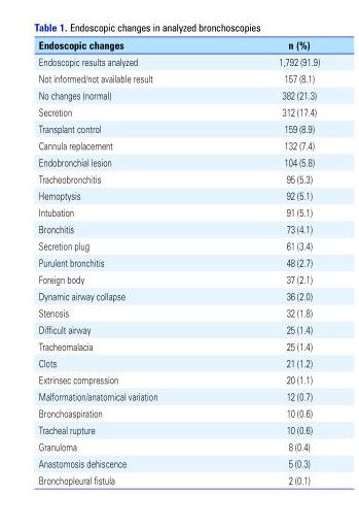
<table><thead><tr><td>Endoscopic changes</td><td>n (%)</td></tr></thead><tbody><tr><td>Endoscopic results analyzed</td><td>1,792 (91.9)</td></tr><tr><td>Not informed/not available result</td><td>157 (8.1)</td></tr><tr><td>No changes (normal)</td><td>382 (21.3)</td></tr><tr><td>Secretion</td><td>312 (17.4)</td></tr><tr><td>Transplant control</td><td>159 (8.9)</td></tr><tr><td>Cannula replacement</td><td>132 (7.4)</td></tr><tr><td>Endobronchial lesion</td><td>104 (5.8)</td></tr><tr><td>Tracheobronchitis</td><td>95 (5.3)</td></tr><tr><td>Hemoptysis</td><td>92 (5.1)</td></tr><tr><td>Intubation</td><td>91 (5.1)</td></tr><tr><td>Bronchitis</td><td>73 (4.1)</td></tr><tr><td>Secretion plug</td><td>61 (3.4)</td></tr><tr><td>Purulent bronchitis</td><td>48 (2.7)</td></tr><tr><td>Foreign body</td><td>37 (2.1)</td></tr><tr><td>Dynamic airway collapse</td><td>36 (2.0)</td></tr><tr><td>Stenosis</td><td>32 (1.8)</td></tr><tr><td>Difficult airway</td><td>25 (1.4)</td></tr><tr><td>Tracheomalacia</td><td>25 (1.4)</td></tr><tr><td>Clots</td><td>21 (1.2)</td></tr><tr><td>Extrinsec compression</td><td>20 (1.1)</td></tr><tr><td>Malformation/anatomical variation</td><td>12 (0.7)</td></tr><tr><td>Bronchoaspiration</td><td>10 (0.6)</td></tr><tr><td>Tracheal rupture</td><td>10 (0.6)</td></tr><tr><td>Granuloma</td><td>8 (0.4)</td></tr><tr><td>Anastomosis dehiscence</td><td>5 (0.3)</td></tr><tr><td>Bronchopleural fistula</td><td>2 (0.1)</td></tr></tbody></table>